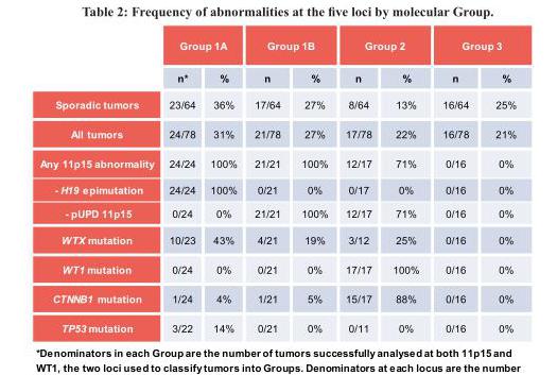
<table><thead><tr><td rowspan="2"></td><td colspan="2">Group 1A</td><td colspan="2">Group 1B</td><td colspan="2">Group 2</td><td colspan="2">Group 3</td></tr><tr><td>n*</td><td>%</td><td>n</td><td>%</td><td>n</td><td>%</td><td>n</td><td>%</td></tr></thead><tbody><tr><td>Sporadic tumors</td><td>23/64</td><td>36%</td><td>17/64</td><td>27%</td><td>8/64</td><td>13%</td><td>16/64</td><td>25%</td></tr><tr><td>All tumors</td><td>24/78</td><td>31%</td><td>21/78</td><td>27%</td><td>17/78</td><td>22%</td><td>16/78</td><td>21%</td></tr><tr><td>Any 11p15 abnormality</td><td>24/24</td><td>100%</td><td>21/21</td><td>100%</td><td>12/17</td><td>71%</td><td>0/16</td><td>0%</td></tr><tr><td>- H19 epimutation</td><td>24/24</td><td>100%</td><td>0/21</td><td>0%</td><td>0/17</td><td>0%</td><td>0/16</td><td>0%</td></tr><tr><td>- pUPD 11p15</td><td>0/24</td><td>0%</td><td>21/21</td><td>100%</td><td>12/17</td><td>71%</td><td>0/16</td><td>0%</td></tr><tr><td>WTX mutation</td><td>10/23</td><td>43%</td><td>4/21</td><td>19%</td><td>3/12</td><td>25%</td><td>0/16</td><td>0%</td></tr><tr><td>WT1 mutation</td><td>0/24</td><td>0%</td><td>0/21</td><td>0%</td><td>17/17</td><td>100%</td><td>0/16</td><td>0%</td></tr><tr><td>CTNNB1 mutation</td><td>1/24</td><td>4%</td><td>1/21</td><td>5%</td><td>15/17</td><td>88%</td><td>0/16</td><td>0%</td></tr><tr><td>TP53 mutation</td><td>3/22</td><td>14%</td><td>0/21</td><td>0%</td><td>0/11</td><td>0%</td><td>0/16</td><td>0%</td></tr></tbody></table>